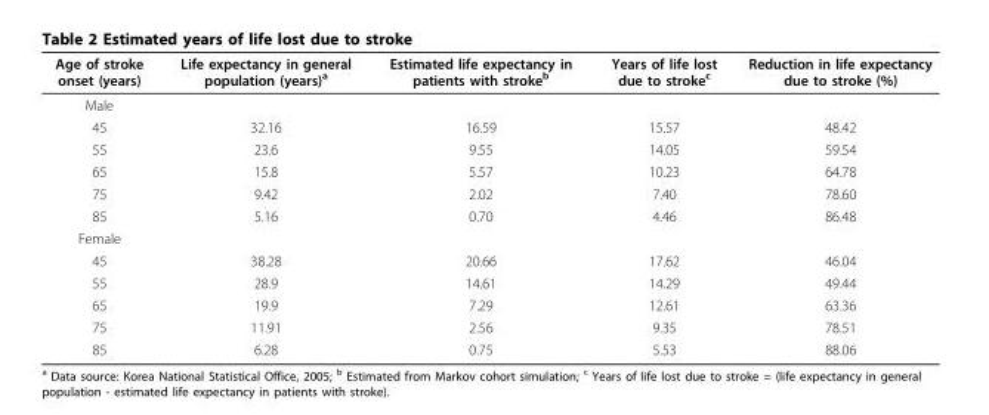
<table><thead><tr><td>Age of stroke onset (years)</td><td>Life expectancy in general population (years)<sup>a</sup></td><td>Estimated life expectancy in patients with stroke<sup>b</sup></td><td>Years of life lost due to stroke<sup>c</sup></td><td>Reduction in life expectancy due to stroke (%)</td></tr></thead><tbody><tr><td colspan="5">Male</td></tr><tr><td>45</td><td>32.16</td><td>16.59</td><td>15.57</td><td>48.42</td></tr><tr><td>55</td><td>23.6</td><td>9.55</td><td>14.05</td><td>59.54</td></tr><tr><td>65</td><td>15.8</td><td>5.57</td><td>10.23</td><td>64.78</td></tr><tr><td>75</td><td>9.42</td><td>2.02</td><td>7.40</td><td>78.60</td></tr><tr><td>85</td><td>5.16</td><td>0.70</td><td>4.46</td><td>86.48</td></tr><tr><td colspan="5">Female</td></tr><tr><td>45</td><td>38.28</td><td>20.66</td><td>17.62</td><td>46.04</td></tr><tr><td>55</td><td>28.9</td><td>14.61</td><td>14.29</td><td>49.44</td></tr><tr><td>65</td><td>19.9</td><td>7.29</td><td>12.61</td><td>63.36</td></tr><tr><td>75</td><td>11.91</td><td>2.56</td><td>9.35</td><td>78.51</td></tr><tr><td>85</td><td>6.28</td><td>0.75</td><td>5.53</td><td>88.06</td></tr></tbody></table>